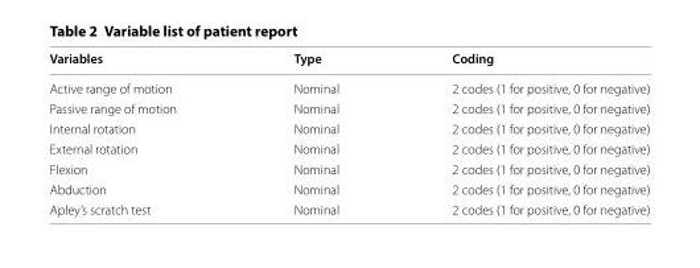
<table><thead><tr><td>Variables</td><td>Type</td><td>Coding</td></tr></thead><tbody><tr><td>Active range of motion</td><td>Nominal</td><td>2 codes (1 for positive, 0 for negative)</td></tr><tr><td>Passive range of motion</td><td>Nominal</td><td>2 codes (1 for positive, 0 for negative)</td></tr><tr><td>Internal rotation</td><td>Nominal</td><td>2 codes (1 for positive, 0 for negative)</td></tr><tr><td>External rotation</td><td>Nominal</td><td>2 codes (1 for positive, 0 for negative)</td></tr><tr><td>Flexion</td><td>Nominal</td><td>2 codes (1 for positive, 0 for negative)</td></tr><tr><td>Abduction</td><td>Nominal</td><td>2 codes (1 for positive, 0 for negative)</td></tr><tr><td>Apley’s scratch test</td><td>Nominal</td><td>2 codes (1 for positive, 0 for negative)</td></tr></tbody></table>